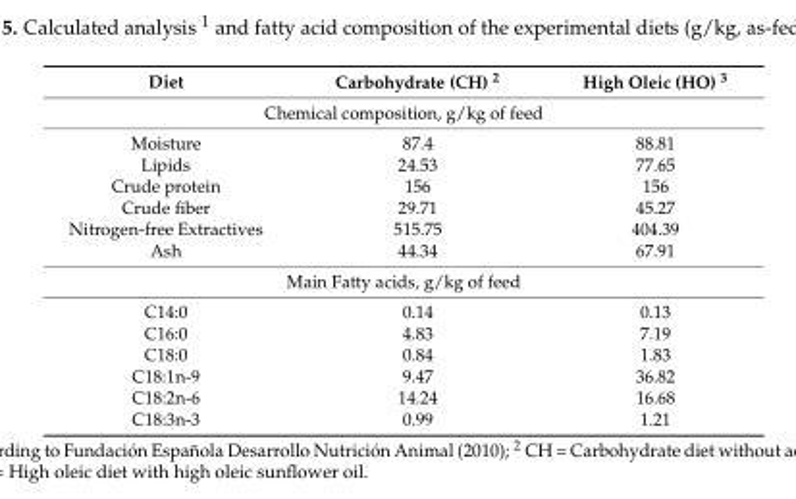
<table><thead><tr><td>Diet</td><td>Carbohydrate (CH) <sup>2</sup></td><td>High Oleic (HO) <sup>3</sup></td></tr></thead><tbody><tr><td colspan="3">Chemical composition, g/kg of feed</td></tr><tr><td>Moisture</td><td>87.4</td><td>88.81</td></tr><tr><td>Lipids</td><td>24.53</td><td>77.65</td></tr><tr><td>Crude protein</td><td>156</td><td>156</td></tr><tr><td>Crude fiber</td><td>29.71</td><td>45.27</td></tr><tr><td>Nitrogen-free Extractives</td><td>515.75</td><td>404.39</td></tr><tr><td>Ash</td><td>44.34</td><td>67.91</td></tr><tr><td colspan="3">Main Fatty acids, g/kg of feed</td></tr><tr><td>C14:0</td><td>0.14</td><td>0.13</td></tr><tr><td>C16:0</td><td>4.83</td><td>7.19</td></tr><tr><td>C18:0</td><td>0.84</td><td>1.83</td></tr><tr><td>C18:1n-9</td><td>9.47</td><td>36.82</td></tr><tr><td>C18:2n-6</td><td>14.24</td><td>16.68</td></tr><tr><td>C18:3n-3</td><td>0.99</td><td>1.21</td></tr></tbody></table>